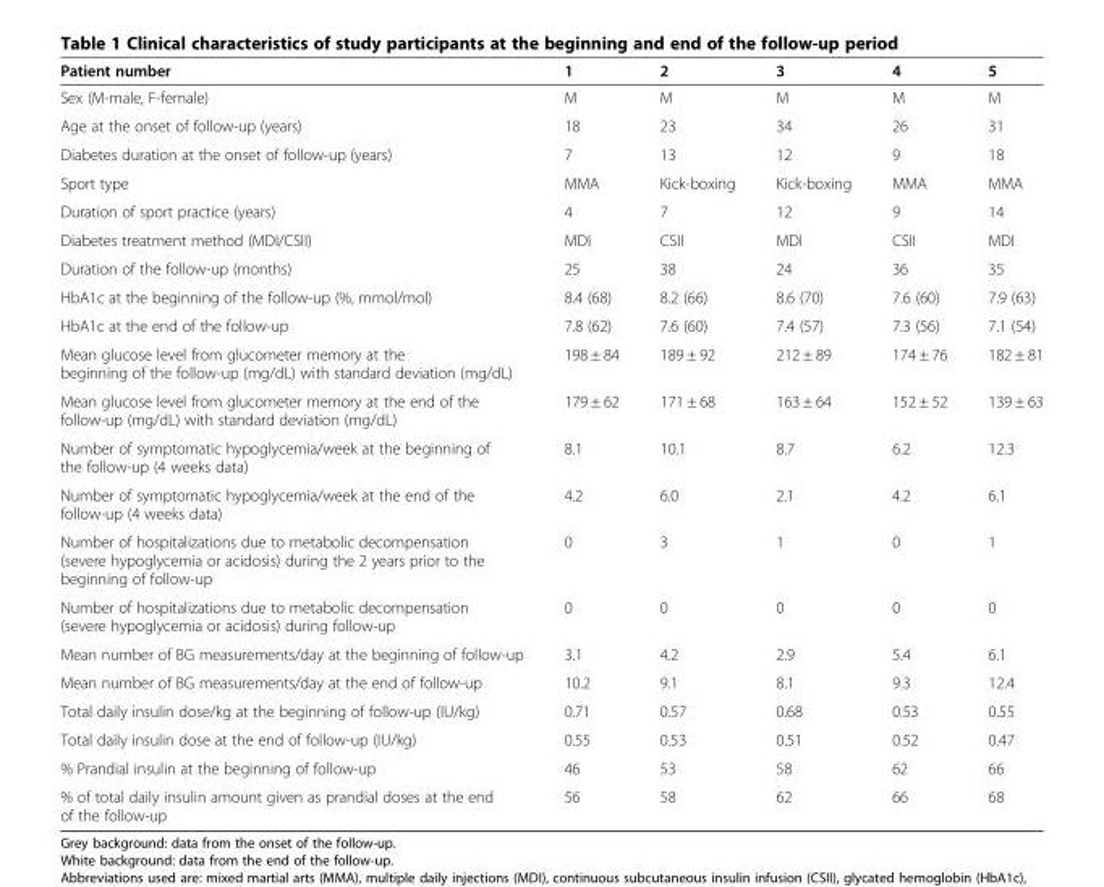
<table><thead><tr><td>Patient number</td><td>1</td><td>2</td><td>3</td><td>4</td><td>5</td></tr></thead><tbody><tr><td>Sex (M-male, F-female)</td><td>M</td><td>M</td><td>M</td><td>M</td><td>M</td></tr><tr><td>Age at the onset of follow-up (years)</td><td>18</td><td>23</td><td>34</td><td>26</td><td>31</td></tr><tr><td>Diabetes duration at the onset of follow-up (years)</td><td>7</td><td>13</td><td>12</td><td>9</td><td>18</td></tr><tr><td>Sport type</td><td>MMA</td><td>Kick-boxing</td><td>Kick-boxing</td><td>MMA</td><td>MMA</td></tr><tr><td>Duration of sport practice (years)</td><td>4</td><td>7</td><td>12</td><td>9</td><td>14</td></tr><tr><td>Diabetes treatment method (MDI/CSII)</td><td>MDI</td><td>CSII</td><td>MDI</td><td>CSII</td><td>MDI</td></tr><tr><td>Duration of the follow-up (months)</td><td>25</td><td>38</td><td>24</td><td>36</td><td>35</td></tr><tr><td>HbA1c at the beginning of the follow-up (%, mmol/mol)</td><td>8.4 (68)</td><td>8.2 (66)</td><td>8.6 (70)</td><td>7.6 (60)</td><td>7.9 (63)</td></tr><tr><td>HbA1c at the end of the follow-up</td><td>7.8 (62)</td><td>7.6 (60)</td><td>7.4 (57)</td><td>7.3 (56)</td><td>7.1 (54)</td></tr><tr><td>Mean glucose level from glucometer memory at the beginning of the follow-up (mg/dL) with standard deviation (mg/dL)</td><td>198 ± 84</td><td>189 ± 92</td><td>212 ± 89</td><td>174 ± 76</td><td>182 ± 81</td></tr><tr><td>Mean glucose level from glucometer memory at the end of the follow-up (mg/dL) with standard deviation (mg/dL)</td><td>179 ± 62</td><td>171 ± 68</td><td>163 ± 64</td><td>152 ± 52</td><td>139 ± 63</td></tr><tr><td>Number of symptomatic hypoglycemia/week at the beginning of the follow-up (4 weeks data)</td><td>8.1</td><td>10.1</td><td>8.7</td><td>6.2</td><td>12.3</td></tr><tr><td>Number of symptomatic hypoglycemia/week at the end of the follow-up (4 weeks data)</td><td>4.2</td><td>6.0</td><td>2.1</td><td>4.2</td><td>6.1</td></tr><tr><td>Number of hospitalizations due to metabolic decompensation (severe hypoglycemia or acidosis) during the 2 years prior to the beginning of follow-up</td><td>0</td><td>3</td><td>1</td><td>0</td><td>1</td></tr><tr><td>Number of hospitalizations due to metabolic decompensation (severe hypoglycemia or acidosis) during follow-up</td><td>0</td><td>0</td><td>0</td><td>0</td><td>0</td></tr><tr><td>Mean number of BG measurements/day at the beginning of follow-up</td><td>3.1</td><td>4.2</td><td>2.9</td><td>5.4</td><td>6.1</td></tr><tr><td>Mean number of BG measurements/day at the end of follow-up</td><td>10.2</td><td>9.1</td><td>8.1</td><td>9.3</td><td>12.4</td></tr><tr><td>Total daily insulin dose/kg at the beginning of follow-up (IU/kg)</td><td>0.71</td><td>0.57</td><td>0.68</td><td>0.53</td><td>0.55</td></tr><tr><td>Total daily insulin dose at the end of follow-up (IU/kg)</td><td>0.55</td><td>0.53</td><td>0.51</td><td>0.52</td><td>0.47</td></tr><tr><td>% Prandial insulin at the beginning of follow-up</td><td>46</td><td>53</td><td>58</td><td>62</td><td>66</td></tr><tr><td>% of total daily insulin amount given as prandial doses at the end of the follow-up</td><td>56</td><td>58</td><td>62</td><td>66</td><td>68</td></tr></tbody></table>